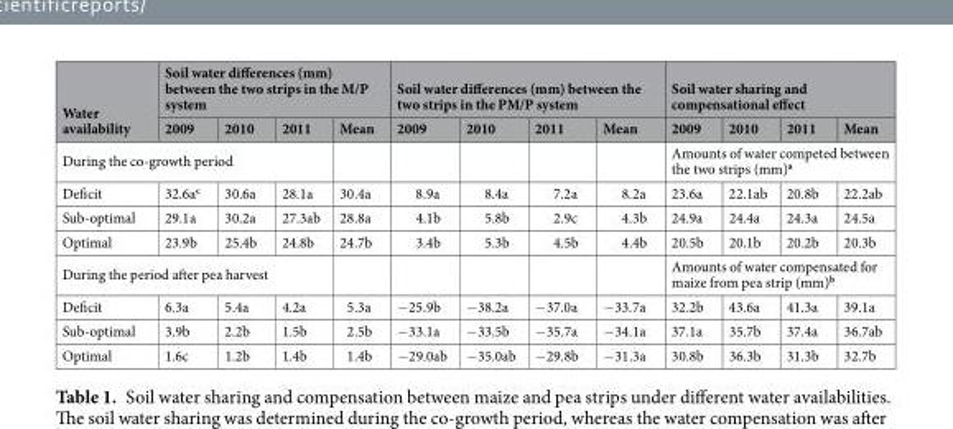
<table><thead><tr><td rowspan="2">Water availability</td><td colspan="4">Soil water differences (mm) between the two strips in the M/P system</td><td colspan="4">Soil water differences (mm) between the two strips in the PM/P system</td><td colspan="4">Soil water sharing and compensational effect</td></tr><tr><td>2009</td><td>2010</td><td>2011</td><td>Mean</td><td>2009</td><td>2010</td><td>2011</td><td>Mean</td><td>2009</td><td>2010</td><td>2011</td><td>Mean</td></tr></thead><tbody><tr><td colspan="4">During the co-growth period</td><td></td><td></td><td></td><td></td><td></td><td colspan="4">Amounts of water competed between the two strips (mm)<sup>a</sup></td></tr><tr><td>Deficit</td><td>32.6a<sup>c</sup></td><td>30.6a</td><td>28.1a</td><td>30.4a</td><td>8.9a</td><td>8.4a</td><td>7.2a</td><td>8.2a</td><td>23.6a</td><td>22.1ab</td><td>20.8b</td><td>22.2ab</td></tr><tr><td>Sub-optimal</td><td>29.1a</td><td>30.2a</td><td>27.3ab</td><td>28.8a</td><td>4.1b</td><td>5.8b</td><td>2.9c</td><td>4.3b</td><td>24.9a</td><td>24.4a</td><td>24.3a</td><td>24.5a</td></tr><tr><td>Optimal</td><td>23.9b</td><td>25.4b</td><td>24.8b</td><td>24.7b</td><td>3.4b</td><td>5.3b</td><td>4.5b</td><td>4.4b</td><td>20.5b</td><td>20.1b</td><td>20.2b</td><td>20.3b</td></tr><tr><td colspan="4">During the period after pea harvest</td><td></td><td></td><td></td><td></td><td></td><td colspan="4">Amounts of water compensated for maize from pea strip (mm)<sup>b</sup></td></tr><tr><td>Deficit</td><td>6.3a</td><td>5.4a</td><td>4.2a</td><td>5.3a</td><td>−25.9b</td><td>−38.2a</td><td>−37.0a</td><td>−33.7a</td><td>32.2b</td><td>43.6a</td><td>41.3a</td><td>39.1a</td></tr><tr><td>Sub-optimal</td><td>3.9b</td><td>2.2b</td><td>1.5b</td><td>2.5b</td><td>−33.1a</td><td>−33.5b</td><td>−35.7a</td><td>−34.1a</td><td>37.1a</td><td>35.7b</td><td>37.4a</td><td>36.7ab</td></tr><tr><td>Optimal</td><td>1.6c</td><td>1.2b</td><td>1.4b</td><td>1.4b</td><td>−29.0ab</td><td>−35.0ab</td><td>−29.8b</td><td>−31.3a</td><td>30.8b</td><td>36.3b</td><td>31.3b</td><td>32.7b</td></tr></tbody></table>